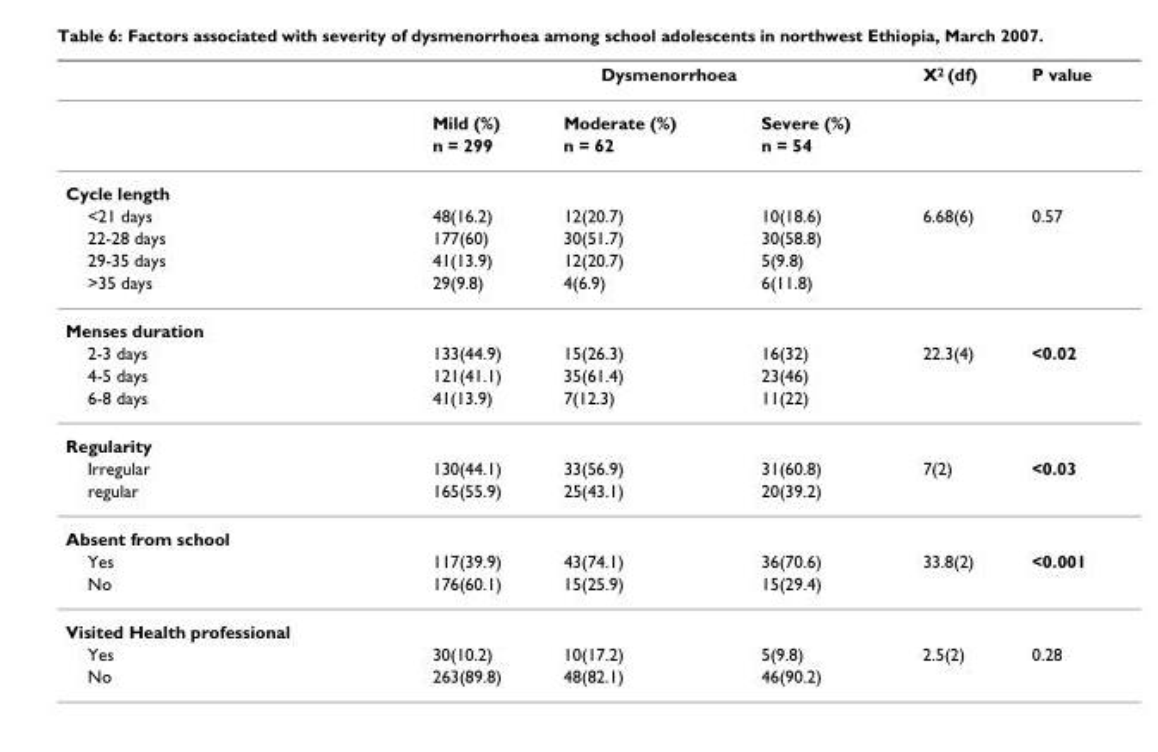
<table><thead><tr><td rowspan="2"></td><td colspan="3">Dysmenorrhoea</td><td rowspan="2">X<sup>2</sup> (df)</td><td rowspan="2">P value</td></tr><tr><td>Mild (%)</td><td>Moderate (%)</td><td>Severe (%)</td></tr></thead><tbody><tr><td></td><td>n = 299</td><td>n = 62</td><td>n = 54</td><td></td><td></td></tr><tr><td colspan="6">Cycle length</td></tr><tr><td>&lt;21 days</td><td>48(16.2)</td><td>12(20.7)</td><td>10(18.6)</td><td>6.68(6)</td><td>0.57</td></tr><tr><td>22-28 days</td><td>177(60)</td><td>30(51.7)</td><td>30(58.8)</td><td></td><td></td></tr><tr><td>29-35 days</td><td>41(13.9)</td><td>12(20.7)</td><td>5(9.8)</td><td></td><td></td></tr><tr><td>&gt;35 days</td><td>29(9.8)</td><td>4(6.9)</td><td>6(11.8)</td><td></td><td></td></tr><tr><td colspan="6">Menses duration</td></tr><tr><td>2-3 days</td><td>133(44.9)</td><td>15(26.3)</td><td>16(32)</td><td>22.3(4)</td><td>&lt;0.02</td></tr><tr><td>4-5 days</td><td>121(41.1)</td><td>35(61.4)</td><td>23(46)</td><td></td><td></td></tr><tr><td>6-8 days</td><td>41(13.9)</td><td>7(12.3)</td><td>11(22)</td><td></td><td></td></tr><tr><td colspan="6">Regularity</td></tr><tr><td>Irregular</td><td>130(44.1)</td><td>33(56.9)</td><td>31(60.8)</td><td>7(2)</td><td>&lt;0.03</td></tr><tr><td>regular</td><td>165(55.9)</td><td>25(43.1)</td><td>20(39.2)</td><td></td><td></td></tr><tr><td colspan="6">Absent from school</td></tr><tr><td>Yes</td><td>117(39.9)</td><td>43(74.1)</td><td>36(70.6)</td><td>33.8(2)</td><td>&lt;0.001</td></tr><tr><td>No</td><td>176(60.1)</td><td>15(25.9)</td><td>15(29.4)</td><td></td><td></td></tr><tr><td colspan="6">Visited Health professional</td></tr><tr><td>Yes</td><td>30(10.2)</td><td>10(17.2)</td><td>5(9.8)</td><td>2.5(2)</td><td>0.28</td></tr><tr><td>No</td><td>263(89.8)</td><td>48(82.1)</td><td>46(90.2)</td><td></td><td></td></tr></tbody></table>